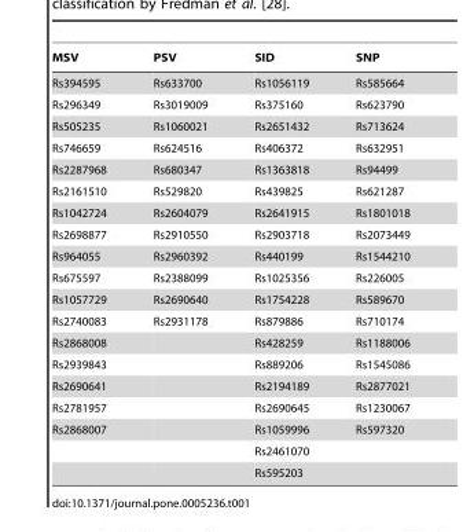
<table><thead><tr><td>MSV</td><td>PSV</td><td>SID</td><td>SNP</td></tr></thead><tbody><tr><td>Rs394595</td><td>Rs633700</td><td>Rs1056119</td><td>Rs585664</td></tr><tr><td>Rs296349</td><td>Rs3019009</td><td>Rs375160</td><td>Rs623790</td></tr><tr><td>Rs505235</td><td>Rs1060021</td><td>Rs2651432</td><td>Rs713624</td></tr><tr><td>Rs746659</td><td>Rs624516</td><td>Rs406372</td><td>Rs632951</td></tr><tr><td>Rs2287968</td><td>Rs680347</td><td>Rs1363818</td><td>Rs94499</td></tr><tr><td>Rs2161510</td><td>Rs529820</td><td>Rs439825</td><td>Rs621287</td></tr><tr><td>Rs1042724</td><td>Rs2604079</td><td>Rs2641915</td><td>Rs1801018</td></tr><tr><td>Rs2698877</td><td>Rs2910550</td><td>Rs2903718</td><td>Rs2073449</td></tr><tr><td>Rs964055</td><td>Rs2960392</td><td>Rs440199</td><td>Rs1544210</td></tr><tr><td>Rs675597</td><td>Rs2388099</td><td>Rs1025356</td><td>Rs226005</td></tr><tr><td>Rs1057729</td><td>Rs2690640</td><td>Rs1754228</td><td>Rs589670</td></tr><tr><td>Rs2740083</td><td>Rs2931178</td><td>Rs879886</td><td>Rs710174</td></tr><tr><td>Rs2868008</td><td></td><td>Rs428259</td><td>Rs1188006</td></tr><tr><td>Rs2939843</td><td></td><td>Rs889206</td><td>Rs1545086</td></tr><tr><td>Rs2690641</td><td></td><td>Rs2194189</td><td>Rs2877021</td></tr><tr><td>Rs2781957</td><td></td><td>Rs2690645</td><td>Rs1230067</td></tr><tr><td rowspan="3">Rs2868007</td><td></td><td>Rs1059996</td><td>Rs597320</td></tr><tr><td></td><td>Rs2461070</td><td></td></tr><tr><td></td><td>Rs595203</td><td></td></tr></tbody></table>